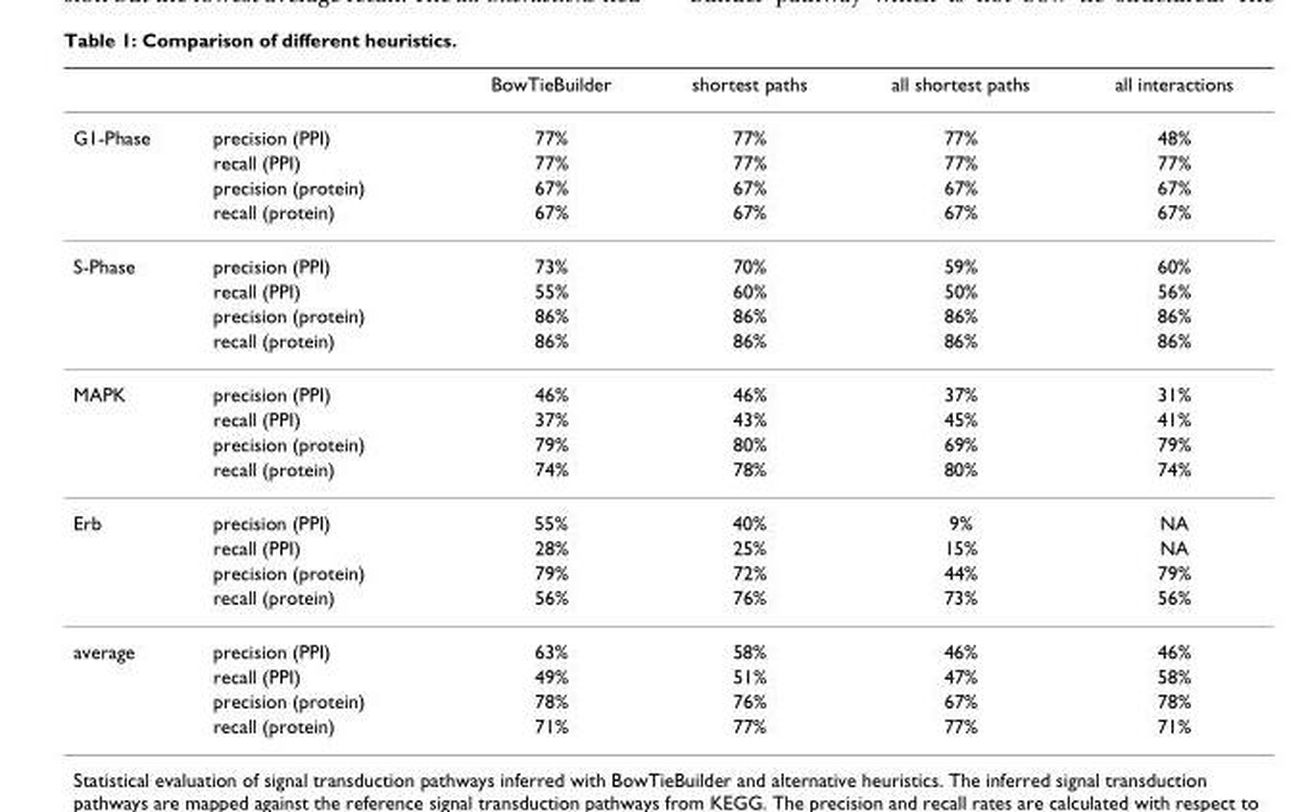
<table><thead><tr><td></td><td></td><td>BowTieBuilder</td><td>shortest paths</td><td>all shortest paths</td><td>all interactions</td></tr></thead><tbody><tr><td rowspan="4">G1-Phase</td><td>precision (PPI)</td><td>77%</td><td>77%</td><td>77%</td><td>48%</td></tr><tr><td>recall (PPI)</td><td>77%</td><td>77%</td><td>77%</td><td>77%</td></tr><tr><td>precision (protein)</td><td>67%</td><td>67%</td><td>67%</td><td>67%</td></tr><tr><td>recall (protein)</td><td>67%</td><td>67%</td><td>67%</td><td>67%</td></tr><tr><td rowspan="4">S-Phase</td><td>precision (PPI)</td><td>73%</td><td>70%</td><td>59%</td><td>60%</td></tr><tr><td>recall (PPI)</td><td>55%</td><td>60%</td><td>50%</td><td>56%</td></tr><tr><td>precision (protein)</td><td>86%</td><td>86%</td><td>86%</td><td>86%</td></tr><tr><td>recall (protein)</td><td>86%</td><td>86%</td><td>86%</td><td>86%</td></tr><tr><td rowspan="4">MAPK</td><td>precision (PPI)</td><td>46%</td><td>46%</td><td>37%</td><td>31%</td></tr><tr><td>recall (PPI)</td><td>37%</td><td>43%</td><td>45%</td><td>41%</td></tr><tr><td>precision (protein)</td><td>79%</td><td>80%</td><td>69%</td><td>79%</td></tr><tr><td>recall (protein)</td><td>74%</td><td>78%</td><td>80%</td><td>74%</td></tr><tr><td rowspan="4">Erb</td><td>precision (PPI)</td><td>55%</td><td>40%</td><td>9%</td><td>NA</td></tr><tr><td>recall (PPI)</td><td>28%</td><td>25%</td><td>15%</td><td>NA</td></tr><tr><td>precision (protein)</td><td>79%</td><td>72%</td><td>44%</td><td>79%</td></tr><tr><td>recall (protein)</td><td>56%</td><td>76%</td><td>73%</td><td>56%</td></tr><tr><td rowspan="4">average</td><td>precision (PPI)</td><td>63%</td><td>58%</td><td>46%</td><td>46%</td></tr><tr><td>recall (PPI)</td><td>49%</td><td>51%</td><td>47%</td><td>58%</td></tr><tr><td>precision (protein)</td><td>78%</td><td>76%</td><td>67%</td><td>78%</td></tr><tr><td>recall (protein)</td><td>71%</td><td>77%</td><td>77%</td><td>71%</td></tr></tbody></table>